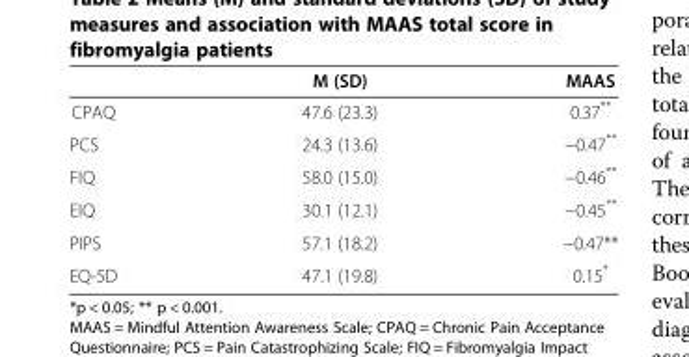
<table><thead><tr><td></td><td>M (SD)</td><td>MAAS</td></tr></thead><tbody><tr><td>CPAQ</td><td>47.6 (23.3)</td><td>0.37**</td></tr><tr><td>PCS</td><td>24.3 (13.6)</td><td>−0.47**</td></tr><tr><td>FIQ</td><td>58.0 (15.0)</td><td>−0.46**</td></tr><tr><td>EIQ</td><td>30.1 (12.1)</td><td>−0.45**</td></tr><tr><td>PIPS</td><td>57.1 (18.2)</td><td>−0.47**</td></tr><tr><td>EQ-5D</td><td>47.1 (19.8)</td><td>0.15*</td></tr></tbody></table>